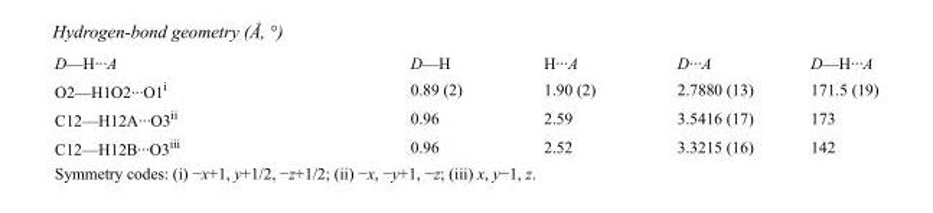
<table><tbody><tr><td>D—H···A</td><td>D—H</td><td>H···A</td><td>D···A</td><td>D—H···A</td></tr><tr><td>O2—H1O2···O1<sup>i</sup></td><td>0.89 (2)</td><td>1.90 (2)</td><td>2.7880 (13)</td><td>171.5 (19)</td></tr><tr><td>C12—H12A···O3<sup>ii</sup></td><td>0.96</td><td>2.59</td><td>3.5416 (17)</td><td>173</td></tr><tr><td>C12—H12B···O3<sup>iii</sup></td><td>0.96</td><td>2.52</td><td>3.3215 (16)</td><td>142</td></tr></tbody></table>